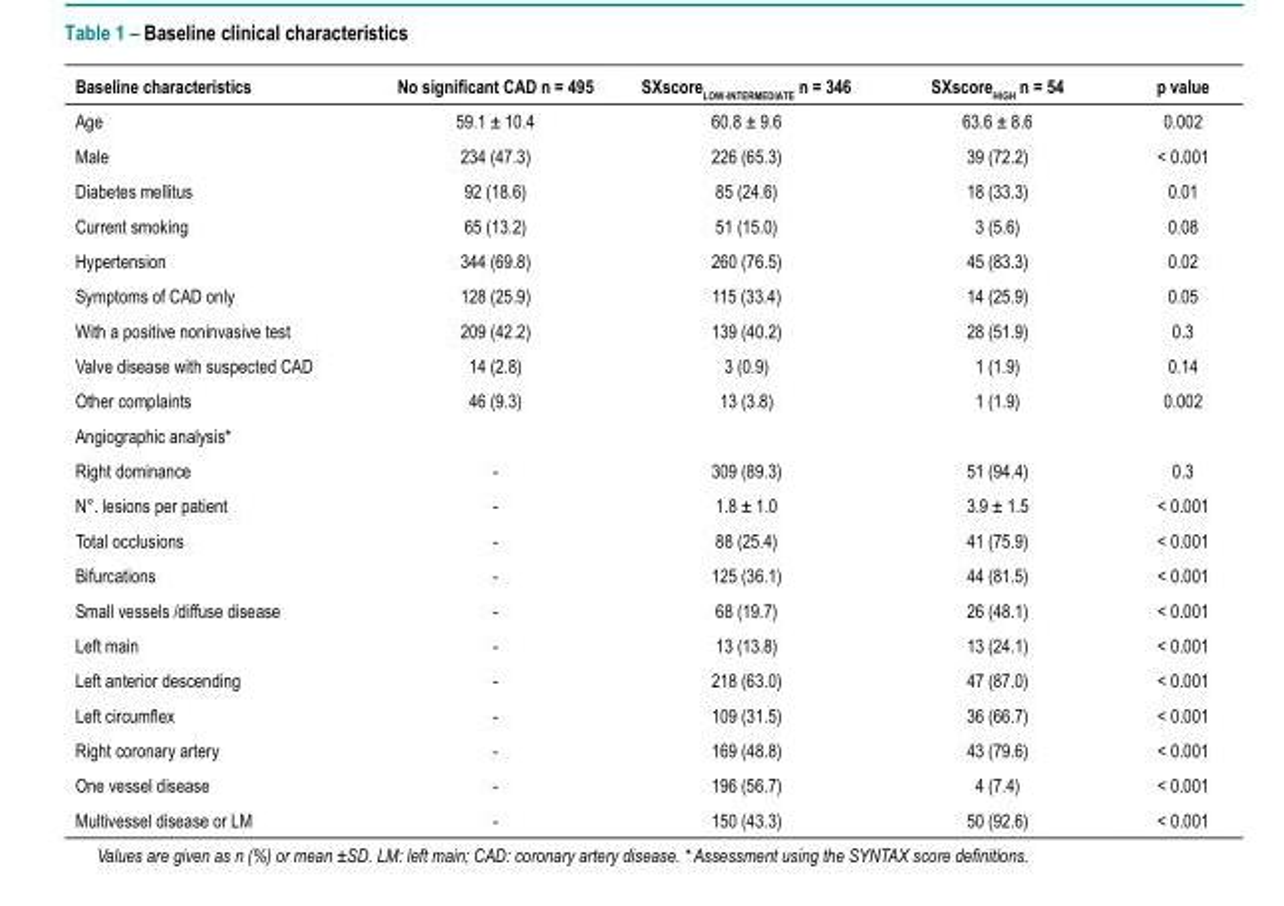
<table><thead><tr><td>Baseline characteristics</td><td>No significant CAD n = 495</td><td>SXscore<sub>LOW-INTERMEDIATE</sub> n = 346</td><td>SXscore<sub>HIGH</sub> n = 54</td><td>p value</td></tr></thead><tbody><tr><td>Age</td><td>59.1 ± 10.4</td><td>60.8 ± 9.6</td><td>63.6 ± 8.6</td><td>0.002</td></tr><tr><td>Male</td><td>234 (47.3)</td><td>226 (65.3)</td><td>39 (72.2)</td><td>&lt; 0.001</td></tr><tr><td>Diabetes mellitus</td><td>92 (18.6)</td><td>85 (24.6)</td><td>18 (33.3)</td><td>0.01</td></tr><tr><td>Current smoking</td><td>65 (13.2)</td><td>51 (15.0)</td><td>3 (5.6)</td><td>0.08</td></tr><tr><td>Hypertension</td><td>344 (69.8)</td><td>260 (76.5)</td><td>45 (83.3)</td><td>0.02</td></tr><tr><td>Symptoms of CAD only</td><td>128 (25.9)</td><td>115 (33.4)</td><td>14 (25.9)</td><td>0.05</td></tr><tr><td>With a positive noninvasive test</td><td>209 (42.2)</td><td>139 (40.2)</td><td>28 (51.9)</td><td>0.3</td></tr><tr><td>Valve disease with suspected CAD</td><td>14 (2.8)</td><td>3 (0.9)</td><td>1 (1.9)</td><td>0.14</td></tr><tr><td>Other complaints</td><td>46 (9.3)</td><td>13 (3.8)</td><td>1 (1.9)</td><td>0.002</td></tr><tr><td colspan="5">Angiographic analysis*</td></tr><tr><td>Right dominance</td><td>-</td><td>309 (89.3)</td><td>51 (94.4)</td><td>0.3</td></tr><tr><td>N°. lesions per patient</td><td>-</td><td>1.8 ± 1.0</td><td>3.9 ± 1.5</td><td>&lt; 0.001</td></tr><tr><td>Total occlusions</td><td>-</td><td>88 (25.4)</td><td>41 (75.9)</td><td>&lt; 0.001</td></tr><tr><td>Bifurcations</td><td>-</td><td>125 (36.1)</td><td>44 (81.5)</td><td>&lt; 0.001</td></tr><tr><td>Small vessels /diffuse disease</td><td>-</td><td>68 (19.7)</td><td>26 (48.1)</td><td>&lt; 0.001</td></tr><tr><td>Left main</td><td>-</td><td>13 (13.8)</td><td>13 (24.1)</td><td>&lt; 0.001</td></tr><tr><td>Left anterior descending</td><td>-</td><td>218 (63.0)</td><td>47 (87.0)</td><td>&lt; 0.001</td></tr><tr><td>Left circumflex</td><td>-</td><td>109 (31.5)</td><td>36 (66.7)</td><td>&lt; 0.001</td></tr><tr><td>Right coronary artery</td><td>-</td><td>169 (48.8)</td><td>43 (79.6)</td><td>&lt; 0.001</td></tr><tr><td>One vessel disease</td><td>-</td><td>196 (56.7)</td><td>4 (7.4)</td><td>&lt; 0.001</td></tr><tr><td>Multivessel disease or LM</td><td>-</td><td>150 (43.3)</td><td>50 (92.6)</td><td>&lt; 0.001</td></tr></tbody></table>